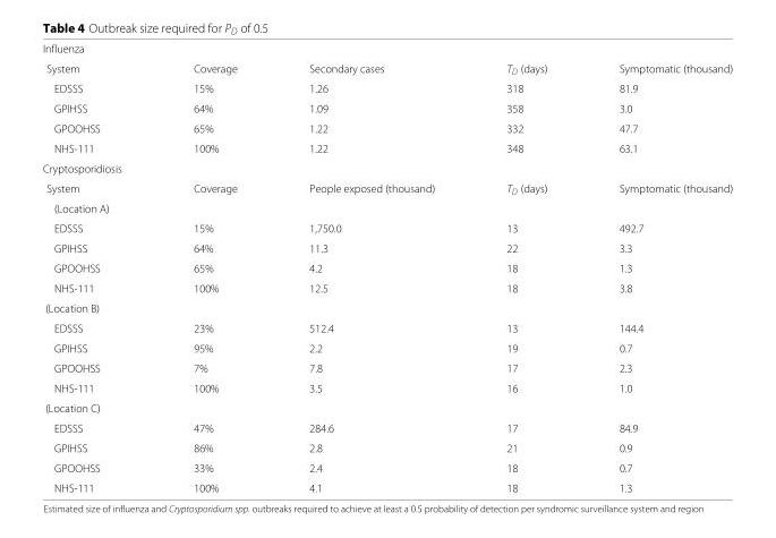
<table><tbody><tr><td colspan="5">Influenza</td></tr><tr><td>System</td><td>Coverage</td><td>Secondary cases</td><td>T<sub>D</sub> (days)</td><td>Symptomatic (thousand)</td></tr><tr><td>EDSSS</td><td>15%</td><td>1.26</td><td>318</td><td>81.9</td></tr><tr><td>GPIHSS</td><td>64%</td><td>1.09</td><td>358</td><td>3.0</td></tr><tr><td>GPOOHSS</td><td>65%</td><td>1.22</td><td>332</td><td>47.7</td></tr><tr><td>NHS-111</td><td>100%</td><td>1.22</td><td>348</td><td>63.1</td></tr><tr><td colspan="5">Cryptosporidiosis</td></tr><tr><td>System</td><td>Coverage</td><td>People exposed (thousand)</td><td>T<sub>D</sub> (days)</td><td>Symptomatic (thousand)</td></tr><tr><td colspan="5">(Location A)</td></tr><tr><td>EDSSS</td><td>15%</td><td>1,750.0</td><td>13</td><td>492.7</td></tr><tr><td>GPIHSS</td><td>64%</td><td>11.3</td><td>22</td><td>3.3</td></tr><tr><td>GPOOHSS</td><td>65%</td><td>4.2</td><td>18</td><td>1.3</td></tr><tr><td>NHS-111</td><td>100%</td><td>12.5</td><td>18</td><td>3.8</td></tr><tr><td colspan="5">(Location B)</td></tr><tr><td>EDSSS</td><td>23%</td><td>512.4</td><td>13</td><td>144.4</td></tr><tr><td>GPIHSS</td><td>95%</td><td>2.2</td><td>19</td><td>0.7</td></tr><tr><td>GPOOHSS</td><td>7%</td><td>7.8</td><td>17</td><td>2.3</td></tr><tr><td>NHS-111</td><td>100%</td><td>3.5</td><td>16</td><td>1.0</td></tr><tr><td colspan="5">(Location C)</td></tr><tr><td>EDSSS</td><td>47%</td><td>284.6</td><td>17</td><td>84.9</td></tr><tr><td>GPIHSS</td><td>86%</td><td>2.8</td><td>21</td><td>0.9</td></tr><tr><td>GPOOHSS</td><td>33%</td><td>2.4</td><td>18</td><td>0.7</td></tr><tr><td>NHS-111</td><td>100%</td><td>4.1</td><td>18</td><td>1.3</td></tr></tbody></table>